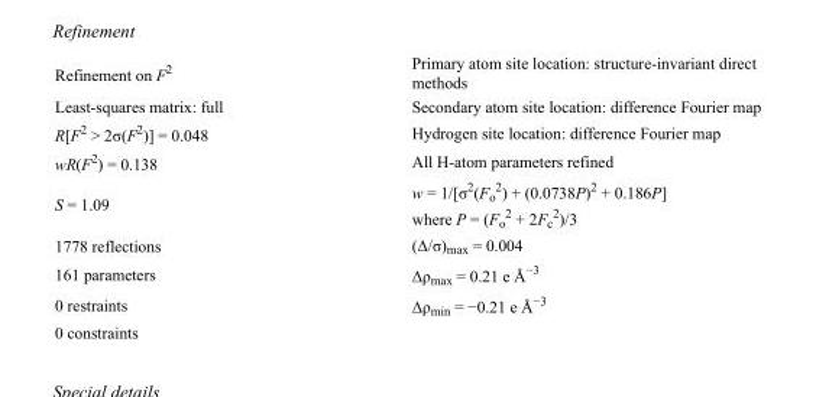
<table><tbody><tr><td>Refinement on F<sup>2</sup></td><td>Primary atom site location: structure-invariant direct methods</td></tr><tr><td>Least-squares matrix: full</td><td>Secondary atom site location: difference Fourier map</td></tr><tr><td>R[F<sup>2</sup> &gt; 2σ(F<sup>2</sup>)] = 0.048</td><td>Hydrogen site location: difference Fourier map</td></tr><tr><td>wR(F<sup>2</sup>) = 0.138</td><td>All H-atom parameters refined</td></tr><tr><td>S = 1.09</td><td>w = 1/[σ<sup>2</sup>(F<sub>o</sub> <sup>2</sup>) + (0.0738P)<sup>2</sup> + 0.186P] where P = (F<sub>o</sub> <sup>2</sup> + 2F<sub>c</sub> <sup>2</sup>)/3</td></tr><tr><td>1778 reflections</td><td>(Δ/σ)<sub>max</sub> = 0.004</td></tr><tr><td>161 parameters</td><td>Δρ<sub>max</sub> = 0.21 e Å<sup>−3</sup></td></tr><tr><td>0 restraints</td><td>Δρ<sub>min</sub> = −0.21 e Å<sup>−3</sup></td></tr><tr><td>0 constraints</td><td></td></tr></tbody></table>